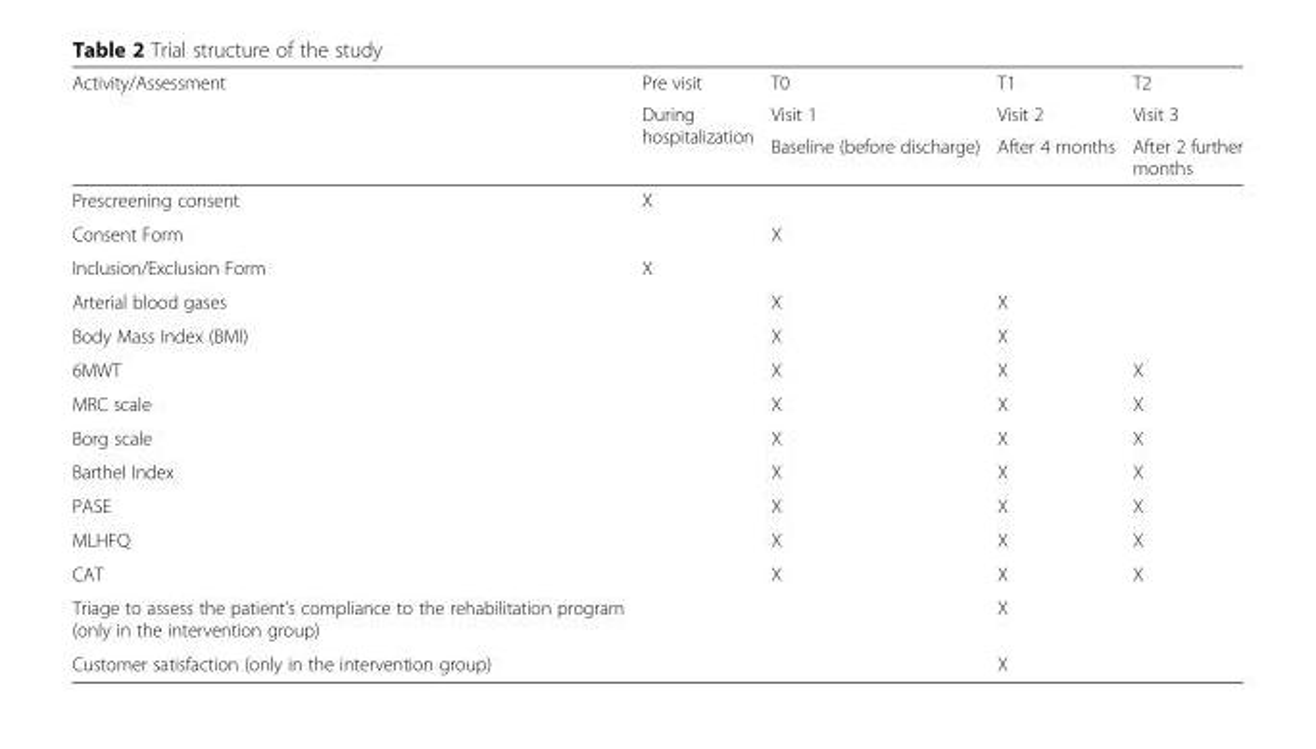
<table><thead><tr><td rowspan="3">Activity/Assessment</td><td rowspan="3">Pre visit During hospitalization</td><td rowspan="3">T0 Visit 1 Baseline (before discharge)</td><td rowspan="3">T1 Visit 2 After 4 months</td><td rowspan="3">T2 Visit 3 After 2 further months</td></tr><tr></tr><tr></tr></thead><tbody><tr><td>Prescreening consent</td><td>X</td><td></td><td></td><td></td></tr><tr><td>Consent Form</td><td></td><td>X</td><td></td><td></td></tr><tr><td>Inclusion/Exclusion Form</td><td>X</td><td></td><td></td><td></td></tr><tr><td>Arterial blood gases</td><td></td><td>X</td><td>X</td><td></td></tr><tr><td>Body Mass Index (BMI)</td><td></td><td>X</td><td>X</td><td></td></tr><tr><td>6MWT</td><td></td><td>X</td><td>X</td><td>X</td></tr><tr><td>MRC scale</td><td></td><td>X</td><td>X</td><td>X</td></tr><tr><td>Borg scale</td><td></td><td>X</td><td>X</td><td>X</td></tr><tr><td>Barthel Index</td><td></td><td>X</td><td>X</td><td>X</td></tr><tr><td>PASE</td><td></td><td>X</td><td>X</td><td>X</td></tr><tr><td>MLHFQ</td><td></td><td>X</td><td>X</td><td>X</td></tr><tr><td>CAT</td><td></td><td>X</td><td>X</td><td>X</td></tr><tr><td>Triage to assess the patient’s compliance to the rehabilitation program (only in the intervention group)</td><td></td><td></td><td>X</td><td></td></tr><tr><td>Customer satisfaction (only in the intervention group)</td><td></td><td></td><td>X</td><td></td></tr></tbody></table>